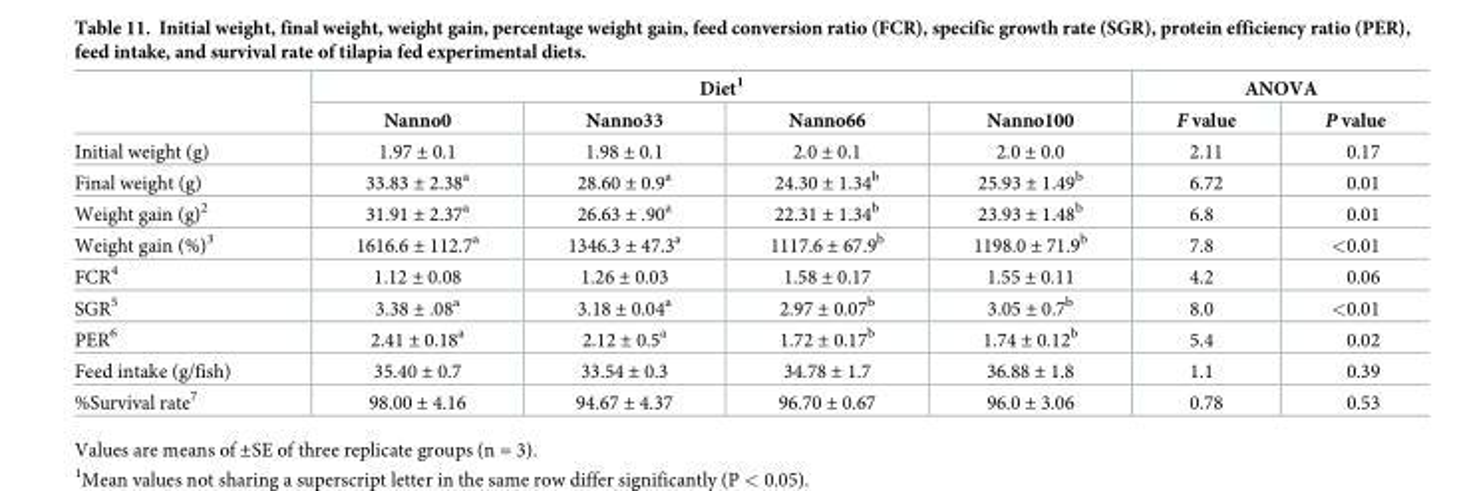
<table><thead><tr><td rowspan="2"></td><td colspan="4">Diet<sup>1</sup></td><td colspan="2">ANOVA</td></tr><tr><td>Nanno0</td><td>Nanno33</td><td>Nanno66</td><td>Nanno100</td><td>F value</td><td>P value</td></tr></thead><tbody><tr><td>Initial weight (g)</td><td>1.97 ± 0.1</td><td>1.98 ± 0.1</td><td>2.0 ± 0.1</td><td>2.0 ± 0.0</td><td>2.11</td><td>0.17</td></tr><tr><td>Final weight (g)</td><td>33.83 ± 2.38<sup>a</sup></td><td>28.60 ± 0.9<sup>a</sup></td><td>24.30 ± 1.34<sup>b</sup></td><td>25.93 ± 1.49<sup>b</sup></td><td>6.72</td><td>0.01</td></tr><tr><td>Weight gain (g)<sup>2</sup></td><td>31.91 ± 2.37<sup>a</sup></td><td>26.63 ± .90<sup>a</sup></td><td>22.31 ± 1.34<sup>b</sup></td><td>23.93 ± 1.48<sup>b</sup></td><td>6.8</td><td>0.01</td></tr><tr><td>Weight gain (%)<sup>3</sup></td><td>1616.6 ± 112.7<sup>a</sup></td><td>1346.3 ± 47.3<sup>a</sup></td><td>1117.6 ± 67.9<sup>b</sup></td><td>1198.0 ± 71.9<sup>b</sup></td><td>7.8</td><td>&lt;0.01</td></tr><tr><td>FCR<sup>4</sup></td><td>1.12 ± 0.08</td><td>1.26 ± 0.03</td><td>1.58 ± 0.17</td><td>1.55 ± 0.11</td><td>4.2</td><td>0.06</td></tr><tr><td>SGR<sup>5</sup></td><td>3.38 ± .08<sup>a</sup></td><td>3.18 ± 0.04<sup>a</sup></td><td>2.97 ± 0.07<sup>b</sup></td><td>3.05 ± 0.7<sup>b</sup></td><td>8.0</td><td>&lt;0.01</td></tr><tr><td>PER<sup>6</sup></td><td>2.41 ± 0.18<sup>a</sup></td><td>2.12 ± 0.5<sup>a</sup></td><td>1.72 ± 0.17<sup>b</sup></td><td>1.74 ± 0.12<sup>b</sup></td><td>5.4</td><td>0.02</td></tr><tr><td>Feed intake (g/fish)</td><td>35.40 ± 0.7</td><td>33.54 ± 0.3</td><td>34.78 ± 1.7</td><td>36.88 ± 1.8</td><td>1.1</td><td>0.39</td></tr><tr><td>%Survival rate<sup>7</sup></td><td>98.00 ± 4.16</td><td>94.67 ± 4.37</td><td>96.70 ± 0.67</td><td>96.0 ± 3.06</td><td>0.78</td><td>0.53</td></tr></tbody></table>